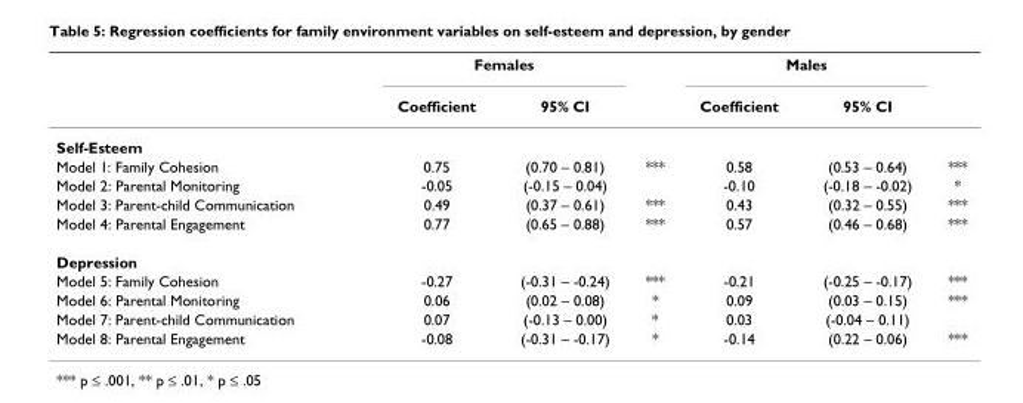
<table><thead><tr><td rowspan="2"></td><td colspan="2">Females</td><td rowspan="2"></td><td colspan="2">Males</td><td rowspan="2"></td></tr><tr><td>Coefficient</td><td>95% CI</td><td>Coefficient</td><td>95% CI</td></tr></thead><tbody><tr><td colspan="7">Self-Esteem</td></tr><tr><td>Model 1: Family Cohesion</td><td>0.75</td><td>(0.70 – 0.81)</td><td>***</td><td>0.58</td><td>(0.53 – 0.64)</td><td>***</td></tr><tr><td>Model 2: Parental Monitoring</td><td>-0.05</td><td>(-0.15 – 0.04)</td><td></td><td>-0.10</td><td>(-0.18 – -0.02)</td><td>*</td></tr><tr><td>Model 3: Parent-child Communication</td><td>0.49</td><td>(0.37 – 0.61)</td><td>***</td><td>0.43</td><td>(0.32 – 0.55)</td><td>***</td></tr><tr><td>Model 4: Parental Engagement</td><td>0.77</td><td>(0.65 – 0.88)</td><td>***</td><td>0.57</td><td>(0.46 – 0.68)</td><td>***</td></tr><tr><td colspan="7">Depression</td></tr><tr><td>Model 5: Family Cohesion</td><td>-0.27</td><td>(-0.31 – -0.24)</td><td>***</td><td>-0.21</td><td>(-0.25 – -0.17)</td><td>***</td></tr><tr><td>Model 6: Parental Monitoring</td><td>0.06</td><td>(0.02 – 0.08)</td><td>*</td><td>0.09</td><td>(0.03 – 0.15)</td><td>***</td></tr><tr><td>Model 7: Parent-child Communication</td><td>0.07</td><td>(-0.13 – 0.00)</td><td>*</td><td>0.03</td><td>(-0.04 – 0.11)</td><td></td></tr><tr><td>Model 8: Parental Engagement</td><td>-0.08</td><td>(-0.31 – -0.17)</td><td>*</td><td>-0.14</td><td>(0.22 – 0.06)</td><td>***</td></tr></tbody></table>